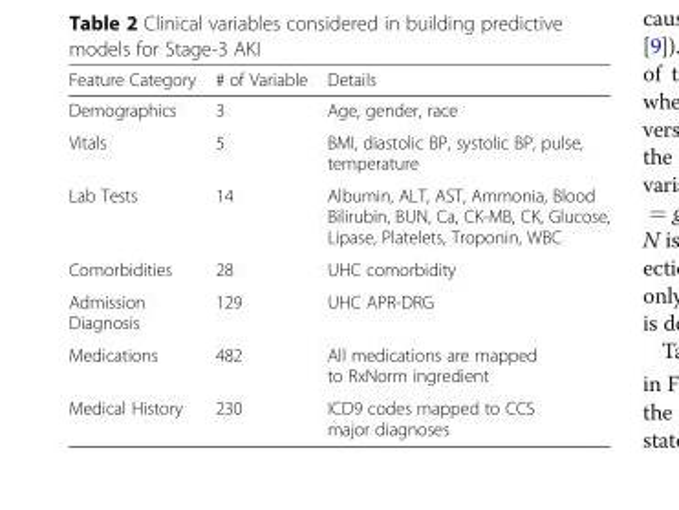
<table><thead><tr><td>Feature Category</td><td># of Variable</td><td>Details</td></tr></thead><tbody><tr><td>Demographics</td><td>3</td><td>Age, gender, race</td></tr><tr><td>Vitals</td><td>5</td><td>BMI, diastolic BP, systolic BP, pulse, temperature</td></tr><tr><td>Lab Tests</td><td>14</td><td>Albumin, ALT, AST, Ammonia, Blood Bilirubin, BUN, Ca, CK-MB, CK, Glucose, Lipase, Platelets, Troponin, WBC</td></tr><tr><td>Comorbidities</td><td>28</td><td>UHC comorbidity</td></tr><tr><td>Admission Diagnosis</td><td>129</td><td>UHC APR-DRG</td></tr><tr><td>Medications</td><td>482</td><td>All medications are mapped to RxNorm ingredient</td></tr><tr><td>Medical History</td><td>230</td><td>ICD9 codes mapped to CCS major diagnoses</td></tr></tbody></table>